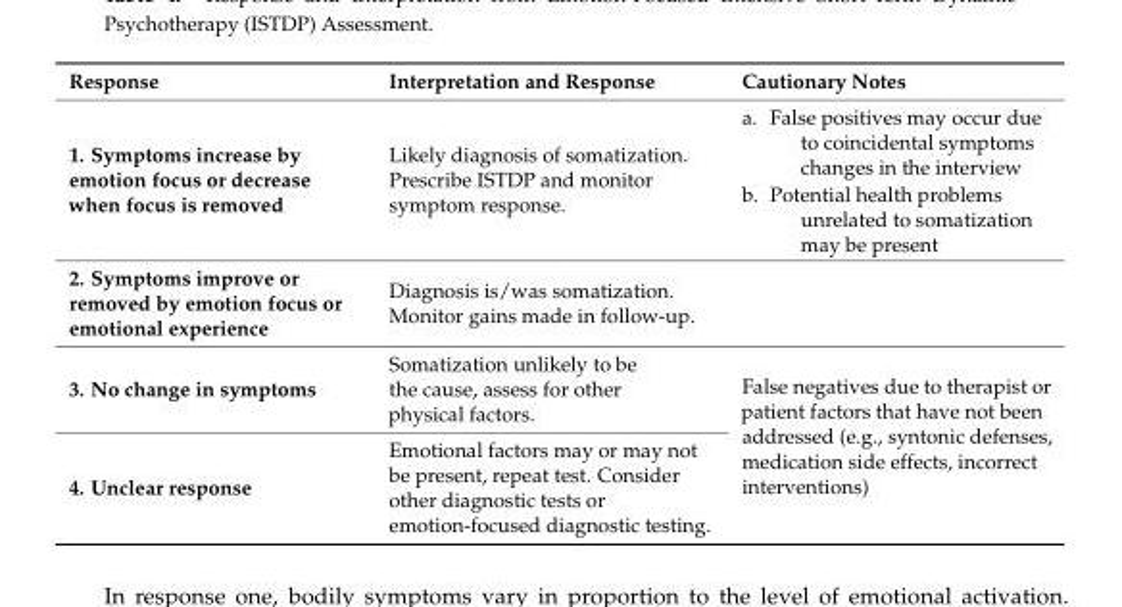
<table><thead><tr><td>Response</td><td>Interpretation and Response</td><td>Cautionary Notes</td></tr></thead><tbody><tr><td>1. Symptoms increase by emotion focus or decrease when focus is removed</td><td>Likely diagnosis of somatization. Prescribe ISTDP and monitor symptom response.</td><td>a. False positives may occur due to coincidental symptoms changes in the interview b. Potential health problems unrelated to somatization may be present</td></tr><tr><td>2. Symptoms improve or removed by emotion focus or emotional experience</td><td>Diagnosis is/was somatization. Monitor gains made in follow-up.</td><td></td></tr><tr><td>3. No change in symptoms</td><td>Somatization unlikely to be the cause, assess for other physical factors.</td><td rowspan="2">False negatives due to therapist or patient factors that have not been addressed (e.g., syntonic defenses, medication side effects, incorrect interventions)</td></tr><tr><td>4. Unclear response</td><td>Emotional factors may or may not be present, repeat test. Consider other diagnostic tests or emotion-focused diagnostic testing.</td></tr></tbody></table>